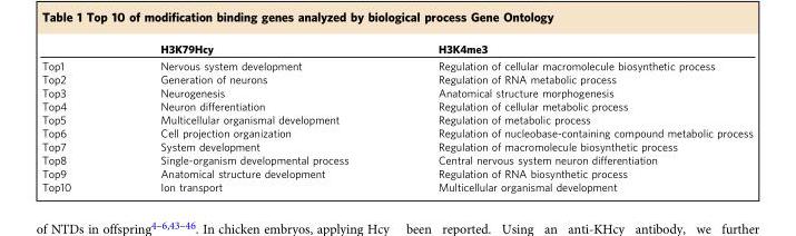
<table><thead><tr><td></td><td>H3K79Hcy</td><td>H3K4me3</td></tr></thead><tbody><tr><td>Top1</td><td>Nervous system development</td><td>Regulation of cellular macromolecule biosynthetic process</td></tr><tr><td>Top2</td><td>Generation of neurons</td><td>Regulation of RNA metabolic process</td></tr><tr><td>Top3</td><td>Neurogenesis</td><td>Anatomical structure morphogenesis</td></tr><tr><td>Top4</td><td>Neuron differentiation</td><td>Regulation of cellular metabolic process</td></tr><tr><td>Top5</td><td>Multicellular organismal development</td><td>Regulation of metabolic process</td></tr><tr><td>Top6</td><td>Cell projection organization</td><td>Regulation of nucleobase-containing compound metabolic process</td></tr><tr><td>Top7</td><td>System development</td><td>Regulation of macromolecule biosynthetic process</td></tr><tr><td>Top8</td><td>Single-organism developmental process</td><td>Central nervous system neuron differentiation</td></tr><tr><td>Top9</td><td>Anatomical structure development</td><td>Regulation of RNA biosynthetic process</td></tr><tr><td>Top10</td><td>Ion transport</td><td>Multicellular organismal development</td></tr></tbody></table>